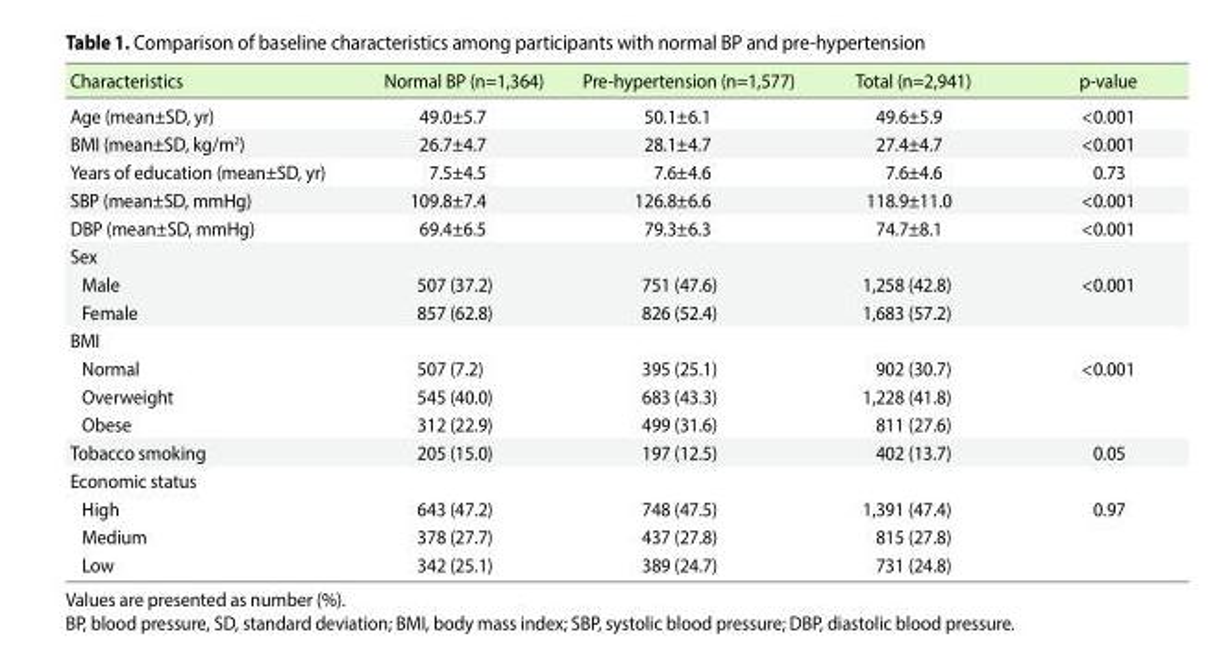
<table><thead><tr><td>Characteristics</td><td>Normal BP (n=1,364)</td><td>Pre-hypertension (n=1,577)</td><td>Total (n=2,941)</td><td>p-value</td></tr></thead><tbody><tr><td>Age (mean±SD, yr)</td><td>49.0±5.7</td><td>50.1±6.1</td><td>49.6±5.9</td><td>&lt;0.001</td></tr><tr><td>BMI (mean±SD, kg/m<sup>2</sup>)</td><td>26.7±4.7</td><td>28.1±4.7</td><td>27.4±4.7</td><td>&lt;0.001</td></tr><tr><td>Years of education (mean±SD, yr)</td><td>7.5±4.5</td><td>7.6±4.6</td><td>7.6±4.6</td><td>0.73</td></tr><tr><td>SBP (mean±SD, mmHg)</td><td>109.8±7.4</td><td>126.8±6.6</td><td>118.9±11.0</td><td>&lt;0.001</td></tr><tr><td>DBP (mean±SD, mmHg)</td><td>69.4±6.5</td><td>79.3±6.3</td><td>74.7±8.1</td><td>&lt;0.001</td></tr><tr><td colspan="5">Sex</td></tr><tr><td>Male</td><td>507 (37.2)</td><td>751 (47.6)</td><td>1,258 (42.8)</td><td>&lt;0.001</td></tr><tr><td>Female</td><td>857 (62.8)</td><td>826 (52.4)</td><td>1,683 (57.2)</td><td></td></tr><tr><td colspan="5">BMI</td></tr><tr><td>Normal</td><td>507 (7.2)</td><td>395 (25.1)</td><td>902 (30.7)</td><td>&lt;0.001</td></tr><tr><td>Overweight</td><td>545 (40.0)</td><td>683 (43.3)</td><td>1,228 (41.8)</td><td></td></tr><tr><td>Obese</td><td>312 (22.9)</td><td>499 (31.6)</td><td>811 (27.6)</td><td></td></tr><tr><td>Tobacco smoking</td><td>205 (15.0)</td><td>197 (12.5)</td><td>402 (13.7)</td><td>0.05</td></tr><tr><td colspan="5">Economic status</td></tr><tr><td>High</td><td>643 (47.2)</td><td>748 (47.5)</td><td>1,391 (47.4)</td><td>0.97</td></tr><tr><td>Medium</td><td>378 (27.7)</td><td>437 (27.8)</td><td>815 (27.8)</td><td></td></tr><tr><td>Low</td><td>342 (25.1)</td><td>389 (24.7)</td><td>731 (24.8)</td><td></td></tr></tbody></table>